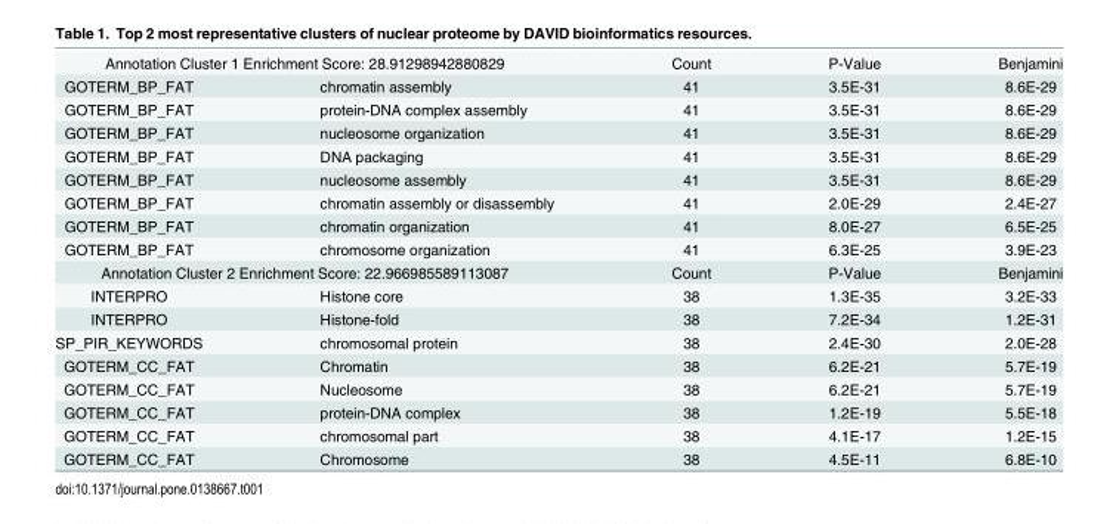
<table><tbody><tr><td colspan="2">Annotation Cluster 1 Enrichment Score: 28.91298942880829</td><td>Count</td><td>P-Value</td><td>Benjamini</td></tr><tr><td>GOTERM_BP_FAT</td><td>chromatin assembly</td><td>41</td><td>3.5E-31</td><td>8.6E-29</td></tr><tr><td>GOTERM_BP_FAT</td><td>protein-DNA complex assembly</td><td>41</td><td>3.5E-31</td><td>8.6E-29</td></tr><tr><td>GOTERM_BP_FAT</td><td>nucleosome organization</td><td>41</td><td>3.5E-31</td><td>8.6E-29</td></tr><tr><td>GOTERM_BP_FAT</td><td>DNA packaging</td><td>41</td><td>3.5E-31</td><td>8.6E-29</td></tr><tr><td>GOTERM_BP_FAT</td><td>nucleosome assembly</td><td>41</td><td>3.5E-31</td><td>8.6E-29</td></tr><tr><td>GOTERM_BP_FAT</td><td>chromatin assembly or disassembly</td><td>41</td><td>2.0E-29</td><td>2.4E-27</td></tr><tr><td>GOTERM_BP_FAT</td><td>chromatin organization</td><td>41</td><td>8.0E-27</td><td>6.5E-25</td></tr><tr><td>GOTERM_BP_FAT</td><td>chromosome organization</td><td>41</td><td>6.3E-25</td><td>3.9E-23</td></tr><tr><td colspan="2">Annotation Cluster 2 Enrichment Score: 22.966985589113087</td><td>Count</td><td>P-Value</td><td>Benjamini</td></tr><tr><td>INTERPRO</td><td>Histone core</td><td>38</td><td>1.3E-35</td><td>3.2E-33</td></tr><tr><td>INTERPRO</td><td>Histone-fold</td><td>38</td><td>7.2E-34</td><td>1.2E-31</td></tr><tr><td>SP_PIR_KEYWORDS</td><td>chromosomal protein</td><td>38</td><td>2.4E-30</td><td>2.0E-28</td></tr><tr><td>GOTERM_CC_FAT</td><td>Chromatin</td><td>38</td><td>6.2E-21</td><td>5.7E-19</td></tr><tr><td>GOTERM_CC_FAT</td><td>Nucleosome</td><td>38</td><td>6.2E-21</td><td>5.7E-19</td></tr><tr><td>GOTERM_CC_FAT</td><td>protein-DNA complex</td><td>38</td><td>1.2E-19</td><td>5.5E-18</td></tr><tr><td>GOTERM_CC_FAT</td><td>chromosomal part</td><td>38</td><td>4.1E-17</td><td>1.2E-15</td></tr><tr><td>GOTERM_CC_FAT</td><td>Chromosome</td><td>38</td><td>4.5E-11</td><td>6.8E-10</td></tr></tbody></table>